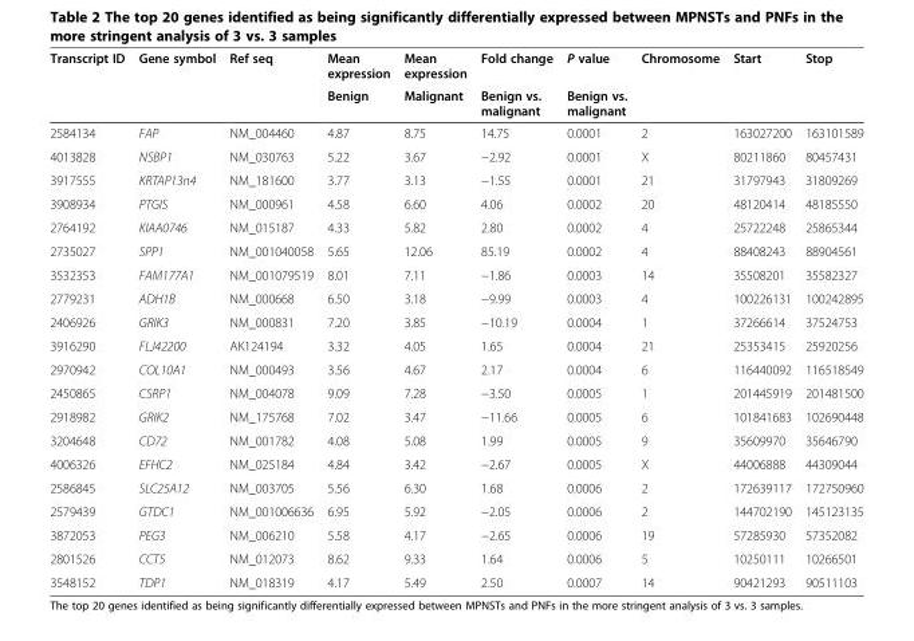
<table><thead><tr><td rowspan="2">Transcript ID</td><td rowspan="2">Gene symbol</td><td rowspan="2">Ref seq</td><td rowspan="2">Mean expression Benign</td><td rowspan="2">Mean expression Malignant</td><td rowspan="2">Fold change Benign vs. malignant</td><td rowspan="2">P value Benign vs. malignant</td><td rowspan="2">Chromosome</td><td rowspan="2">Start</td><td rowspan="2">Stop</td></tr><tr></tr></thead><tbody><tr><td>2584134</td><td>FAP</td><td>NM_004460</td><td>4.87</td><td>8.75</td><td>14.75</td><td>0.0001</td><td>2</td><td>163027200</td><td>163101589</td></tr><tr><td>4013828</td><td>NSBP1</td><td>NM_030763</td><td>5.22</td><td>3.67</td><td>−2.92</td><td>0.0001</td><td>X</td><td>80211860</td><td>80457431</td></tr><tr><td>3917555</td><td>KRTAP13n4</td><td>NM_181600</td><td>3.77</td><td>3.13</td><td>−1.55</td><td>0.0001</td><td>21</td><td>31797943</td><td>31809269</td></tr><tr><td>3908934</td><td>PTGIS</td><td>NM_000961</td><td>4.58</td><td>6.60</td><td>4.06</td><td>0.0002</td><td>20</td><td>48120414</td><td>48185550</td></tr><tr><td>2764192</td><td>KIAA0746</td><td>NM_015187</td><td>4.33</td><td>5.82</td><td>2.80</td><td>0.0002</td><td>4</td><td>25722248</td><td>25865344</td></tr><tr><td>2735027</td><td>SPP1</td><td>NM_001040058</td><td>5.65</td><td>12.06</td><td>85.19</td><td>0.0002</td><td>4</td><td>88408243</td><td>88904561</td></tr><tr><td>3532353</td><td>FAM177A1</td><td>NM_001079519</td><td>8.01</td><td>7.11</td><td>−1.86</td><td>0.0003</td><td>14</td><td>35508201</td><td>35582327</td></tr><tr><td>2779231</td><td>ADH1B</td><td>NM_000668</td><td>6.50</td><td>3.18</td><td>−9.99</td><td>0.0003</td><td>4</td><td>100226131</td><td>100242895</td></tr><tr><td>2406926</td><td>GRIK3</td><td>NM_000831</td><td>7.20</td><td>3.85</td><td>−10.19</td><td>0.0004</td><td>1</td><td>37266614</td><td>37524753</td></tr><tr><td>3916290</td><td>FLJ42200</td><td>AK124194</td><td>3.32</td><td>4.05</td><td>1.65</td><td>0.0004</td><td>21</td><td>25353415</td><td>25920256</td></tr><tr><td>2970942</td><td>COL10A1</td><td>NM_000493</td><td>3.56</td><td>4.67</td><td>2.17</td><td>0.0004</td><td>6</td><td>116440092</td><td>116518549</td></tr><tr><td>2450865</td><td>CSRP1</td><td>NM_004078</td><td>9.09</td><td>7.28</td><td>−3.50</td><td>0.0005</td><td>1</td><td>201445919</td><td>201481500</td></tr><tr><td>2918982</td><td>GRIK2</td><td>NM_175768</td><td>7.02</td><td>3.47</td><td>−11.66</td><td>0.0005</td><td>6</td><td>101841683</td><td>102690448</td></tr><tr><td>3204648</td><td>CD72</td><td>NM_001782</td><td>4.08</td><td>5.08</td><td>1.99</td><td>0.0005</td><td>9</td><td>35609970</td><td>35646790</td></tr><tr><td>4006326</td><td>EFHC2</td><td>NM_025184</td><td>4.84</td><td>3.42</td><td>−2.67</td><td>0.0005</td><td>X</td><td>44006888</td><td>44309044</td></tr><tr><td>2586845</td><td>SLC25A12</td><td>NM_003705</td><td>5.56</td><td>6.30</td><td>1.68</td><td>0.0006</td><td>2</td><td>172639117</td><td>172750960</td></tr><tr><td>2579439</td><td>GTDC1</td><td>NM_001006636</td><td>6.95</td><td>5.92</td><td>−2.05</td><td>0.0006</td><td>2</td><td>144702190</td><td>145123135</td></tr><tr><td>3872053</td><td>PEG3</td><td>NM_006210</td><td>5.58</td><td>4.17</td><td>−2.65</td><td>0.0006</td><td>19</td><td>57285930</td><td>57352082</td></tr><tr><td>2801526</td><td>CCT5</td><td>NM_012073</td><td>8.62</td><td>9.33</td><td>1.64</td><td>0.0006</td><td>5</td><td>10250111</td><td>10266501</td></tr><tr><td>3548152</td><td>TDP1</td><td>NM_018319</td><td>4.17</td><td>5.49</td><td>2.50</td><td>0.0007</td><td>14</td><td>90421293</td><td>90511103</td></tr></tbody></table>